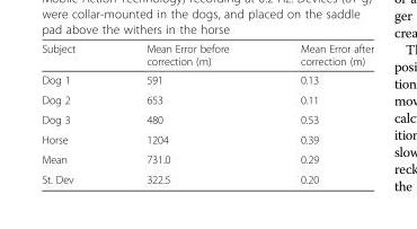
<table><thead><tr><td>Subject</td><td>Mean Error before correction (m)</td><td>Mean Error after correction (m)</td></tr></thead><tbody><tr><td>Dog 1</td><td>591</td><td>0.13</td></tr><tr><td>Dog 2</td><td>653</td><td>0.11</td></tr><tr><td>Dog 3</td><td>480</td><td>0.53</td></tr><tr><td>Horse</td><td>1204</td><td>0.39</td></tr><tr><td>Mean</td><td>731.0</td><td>0.29</td></tr><tr><td>St. Dev</td><td>322.5</td><td>0.20</td></tr></tbody></table>